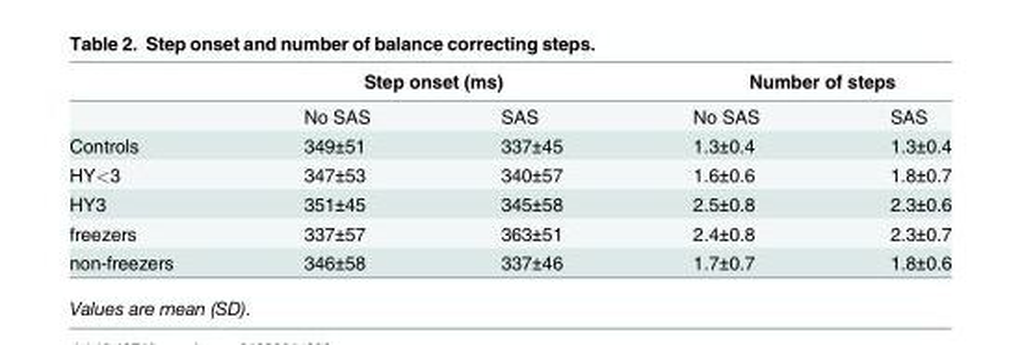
<table><thead><tr><td rowspan="2"></td><td colspan="2">Step onset (ms)</td><td colspan="2">Number of steps</td></tr><tr><td>No SAS</td><td>SAS</td><td>No SAS</td><td>SAS</td></tr></thead><tbody><tr><td>Controls</td><td>349±51</td><td>337±45</td><td>1.3±0.4</td><td>1.3±0.4</td></tr><tr><td>HY&lt;3</td><td>347±53</td><td>340±57</td><td>1.6±0.6</td><td>1.8±0.7</td></tr><tr><td>HY3</td><td>351±45</td><td>345±58</td><td>2.5±0.8</td><td>2.3±0.6</td></tr><tr><td>freezers</td><td>337±57</td><td>363±51</td><td>2.4±0.8</td><td>2.3±0.7</td></tr><tr><td>non-freezers</td><td>346±58</td><td>337±46</td><td>1.7±0.7</td><td>1.8±0.6</td></tr></tbody></table>